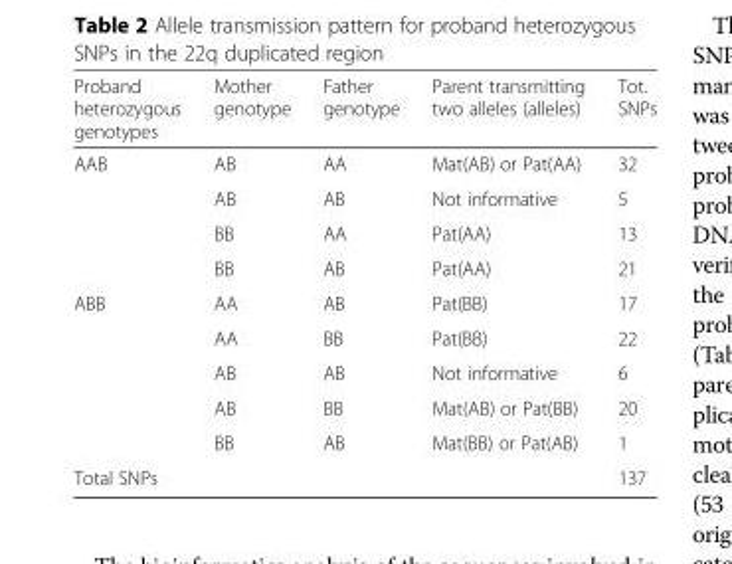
<table><thead><tr><td>Proband heterozygous genotypes</td><td>Mother genotype</td><td>Father genotype</td><td>Parent transmitting two alleles (alleles)</td><td>Tot. SNPs</td></tr></thead><tbody><tr><td rowspan="4">AAB</td><td>AB</td><td>AA</td><td>Mat(AB) or Pat(AA)</td><td>32</td></tr><tr><td>AB</td><td>AB</td><td>Not informative</td><td>5</td></tr><tr><td>BB</td><td>AA</td><td>Pat(AA)</td><td>13</td></tr><tr><td>BB</td><td>AB</td><td>Pat(AA)</td><td>21</td></tr><tr><td rowspan="5">ABB</td><td>AA</td><td>AB</td><td>Pat(BB)</td><td>17</td></tr><tr><td>AA</td><td>BB</td><td>Pat(BB)</td><td>22</td></tr><tr><td>AB</td><td>AB</td><td>Not informative</td><td>6</td></tr><tr><td>AB</td><td>BB</td><td>Mat(AB) or Pat(BB)</td><td>20</td></tr><tr><td>BB</td><td>AB</td><td>Mat(BB) or Pat(AB)</td><td>1</td></tr><tr><td>Total SNPs</td><td></td><td></td><td></td><td>137</td></tr></tbody></table>